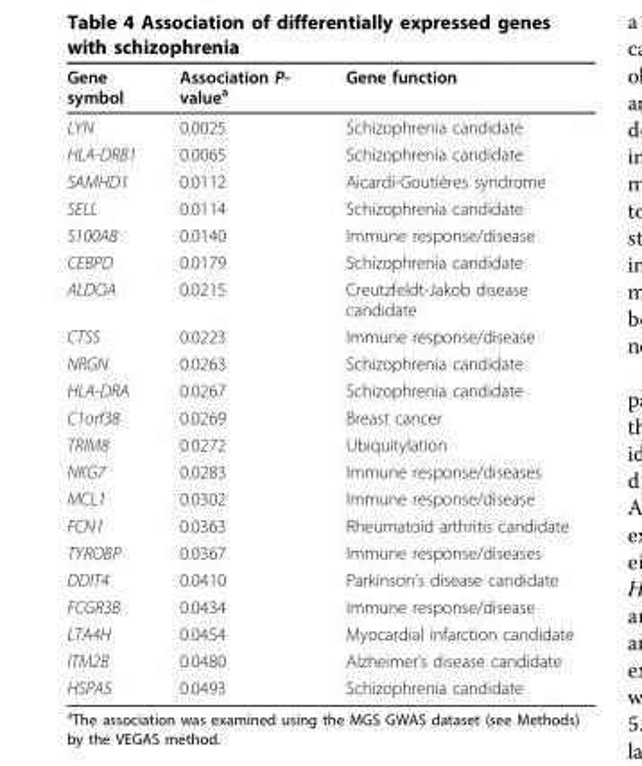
<table><thead><tr><td>Gene symbol</td><td>Association P- value<sup>a</sup></td><td>Gene function</td></tr></thead><tbody><tr><td>LYN</td><td>0.0025</td><td>Schizophrenia candidate</td></tr><tr><td>HLA-DRB1</td><td>0.0065</td><td>Schizophrenia candidate</td></tr><tr><td>SAMHD1</td><td>0.0112</td><td>Aicardi-Goutières syndrome</td></tr><tr><td>SELL</td><td>0.0114</td><td>Schizophrenia candidate</td></tr><tr><td>S100A8</td><td>0.0140</td><td>Immune response/disease</td></tr><tr><td>CEBPD</td><td>0.0179</td><td>Schizophrenia candidate</td></tr><tr><td>ALDOA</td><td>0.0215</td><td>Creutzfeldt-Jakob disease candidate</td></tr><tr><td>CTSS</td><td>0.0223</td><td>Immune response/disease</td></tr><tr><td>NRGN</td><td>0.0263</td><td>Schizophrenia candidate</td></tr><tr><td>HLA-DRA</td><td>0.0267</td><td>Schizophrenia candidate</td></tr><tr><td>C1orf38</td><td>0.0269</td><td>Breast cancer</td></tr><tr><td>TRIM8</td><td>0.0272</td><td>Ubiquitylation</td></tr><tr><td>NKG7</td><td>0.0283</td><td>Immune response/diseases</td></tr><tr><td>MCL1</td><td>0.0302</td><td>Immune response/disease</td></tr><tr><td>FCN1</td><td>0.0363</td><td>Rheumatoid arthritis candidate</td></tr><tr><td>TYROBP</td><td>0.0367</td><td>Immune response/diseases</td></tr><tr><td>DDIT4</td><td>0.0410</td><td>Parkinson’s disease candidate</td></tr><tr><td>FCGR3B</td><td>0.0434</td><td>Immune response/disease</td></tr><tr><td>LTA4H</td><td>0.0454</td><td>Myocardial infarction candidate</td></tr><tr><td>ITM2B</td><td>0.0480</td><td>Alzheimer’s disease candidate</td></tr><tr><td>HSPA5</td><td>0.0493</td><td>Schizophrenia candidate</td></tr></tbody></table>